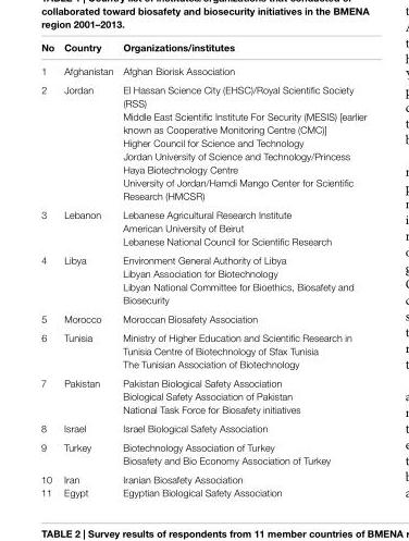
<table><thead><tr><td>no</td><td>country</td><td>Organizations/institutes</td></tr></thead><tbody><tr><td>1</td><td>Afghanistan</td><td>Afghan Biorisk Association</td></tr><tr><td rowspan="5">2</td><td rowspan="5">Jordan</td><td>El Hassan Science City (EHSC)/Royal Scientific Society (RSS)</td></tr><tr><td>Middle East Scientific Institute For Security (MESIS) [earlier known as Cooperative Monitoring Centre (CMC)]</td></tr><tr><td>Higher Council for Science and Technology</td></tr><tr><td>Jordan University of Science and Technology/Princess Haya Biotechnology Centre</td></tr><tr><td>University of Jordan/Hamdi Mango Center for Scientific Research (HMCSR)</td></tr><tr><td rowspan="3">3</td><td rowspan="3">Lebanon</td><td>Lebanese Agricultural Research Institute</td></tr><tr><td>American University of Beirut</td></tr><tr><td>Lebanese National Council for Scientific Research</td></tr><tr><td rowspan="3">4</td><td rowspan="3">Libya</td><td>Environment General Authority of Libya</td></tr><tr><td>Libyan Association for Biotechnology</td></tr><tr><td>Libyan National Committee for Bioethics, Biosafety and Biosecurity</td></tr><tr><td>5</td><td>Morocco</td><td>Moroccan Biosafety Association</td></tr><tr><td rowspan="2">6</td><td rowspan="2">Tunisia</td><td>Ministry of Higher Education and Scientific Research in Tunisia Centre of Biotechnology of Sfax Tunisia</td></tr><tr><td>The Tunisian Association of Biotechnology</td></tr><tr><td rowspan="3">7</td><td rowspan="3">Pakistan</td><td>Pakistan Biological Safety Association</td></tr><tr><td>Biological Safety Association of Pakistan</td></tr><tr><td>National Task Force for Biosafety initiatives</td></tr><tr><td>8</td><td>Israel</td><td>Israel Biological Safety Association</td></tr><tr><td rowspan="2">9</td><td rowspan="2">Turkey</td><td>Biotechnology Association of Turkey</td></tr><tr><td>Biosafety and Bio Economy Association of Turkey</td></tr><tr><td>10</td><td>Iran</td><td>Iranian Biosafety Association</td></tr><tr><td>11</td><td>Egypt</td><td>Egyptian Biological Safety Association</td></tr></tbody></table>